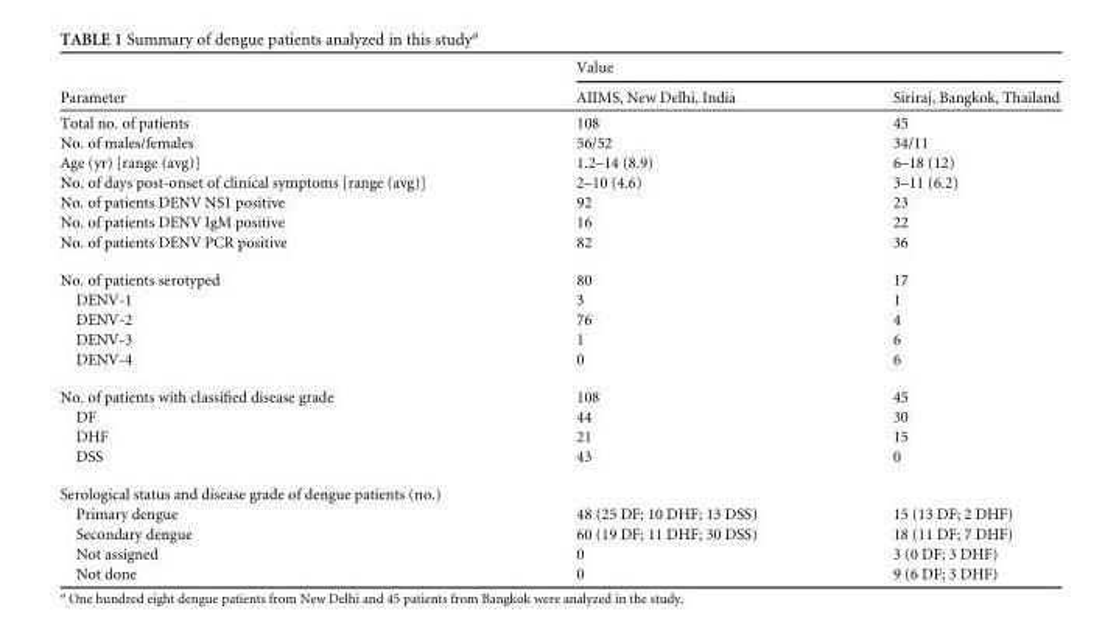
<table><thead><tr><td rowspan="2">Parameter</td><td colspan="2">Value</td></tr><tr><td>AIIMS, New Delhi, India</td><td>Siriraj, Bangkok, Thailand</td></tr></thead><tbody><tr><td>Total no. of patients</td><td>108</td><td>45</td></tr><tr><td>No. of males/females</td><td>56/52</td><td>34/11</td></tr><tr><td>Age (yr) [range (avg)]</td><td>1.2–14 (8.9)</td><td>6–18 (12)</td></tr><tr><td>No. of days post-onset of clinical symptoms [range (avg)]</td><td>2–10 (4.6)</td><td>3–11 (6.2)</td></tr><tr><td>No. of patients DENV NS1 positive</td><td>92</td><td>23</td></tr><tr><td>No. of patients DENV IgM positive</td><td>16</td><td>22</td></tr><tr><td>No. of patients DENV PCR positive</td><td>82</td><td>36</td></tr><tr><td>No. of patients serotyped</td><td>80</td><td>17</td></tr><tr><td>DENV-1</td><td>3</td><td>1</td></tr><tr><td>DENV-2</td><td>76</td><td>4</td></tr><tr><td>DENV-3</td><td>1</td><td>6</td></tr><tr><td>DENV-4</td><td>0</td><td>6</td></tr><tr><td>No. of patients with classified disease grade</td><td>108</td><td>45</td></tr><tr><td>DF</td><td>44</td><td>30</td></tr><tr><td>DHF</td><td>21</td><td>15</td></tr><tr><td>DSS</td><td>43</td><td>0</td></tr><tr><td colspan="3">Serological status and disease grade of dengue patients (no.)</td></tr><tr><td>Primary dengue</td><td>48 (25 DF; 10 DHF; 13 DSS)</td><td>15 (13 DF; 2 DHF)</td></tr><tr><td>Secondary dengue</td><td>60 (19 DF; 11 DHF; 30 DSS)</td><td>18 (11 DF; 7 DHF)</td></tr><tr><td>Not assigned</td><td>0</td><td>3 (0 DF; 3 DHF)</td></tr><tr><td>Not done</td><td>0</td><td>9 (6 DF; 3 DHF)</td></tr></tbody></table>